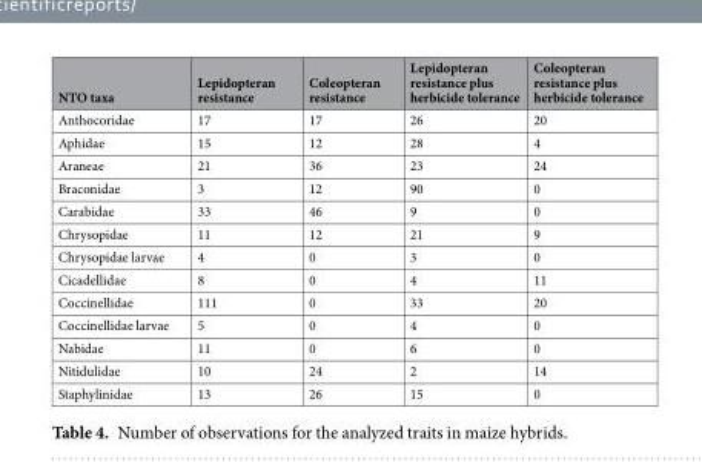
<table><thead><tr><td>NTO taxa</td><td>Lepidopteran resistance</td><td>Coleopteran resistance</td><td>Lepidopteran resistance plus herbicide tolerance</td><td>Coleopteran resistance plus herbicide tolerance</td></tr></thead><tbody><tr><td>Anthocoridae</td><td>17</td><td>17</td><td>26</td><td>20</td></tr><tr><td>Aphidae</td><td>15</td><td>12</td><td>28</td><td>4</td></tr><tr><td>Araneae</td><td>21</td><td>36</td><td>23</td><td>24</td></tr><tr><td>Braconidae</td><td>3</td><td>12</td><td>90</td><td>0</td></tr><tr><td>Carabidae</td><td>33</td><td>46</td><td>9</td><td>0</td></tr><tr><td>Chrysopidae</td><td>11</td><td>12</td><td>21</td><td>9</td></tr><tr><td>Chrysopidae larvae</td><td>4</td><td>0</td><td>3</td><td>0</td></tr><tr><td>Cicadellidae</td><td>8</td><td>0</td><td>4</td><td>11</td></tr><tr><td>Coccinellidae</td><td>111</td><td>0</td><td>33</td><td>20</td></tr><tr><td>Coccinellidae larvae</td><td>5</td><td>0</td><td>4</td><td>0</td></tr><tr><td>Nabidae</td><td>11</td><td>0</td><td>6</td><td>0</td></tr><tr><td>Nitidulidae</td><td>10</td><td>24</td><td>2</td><td>14</td></tr><tr><td>Staphylinidae</td><td>13</td><td>26</td><td>15</td><td>0</td></tr></tbody></table>